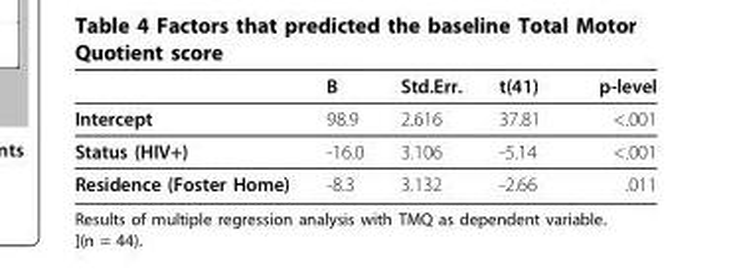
<table><thead><tr><td></td><td>B</td><td>Std.Err.</td><td>t(41)</td><td>p-level</td></tr></thead><tbody><tr><td>Intercept</td><td>98.9</td><td>2.616</td><td>37.81</td><td>&lt;.001</td></tr><tr><td>Status (HIV+)</td><td>-16.0</td><td>3.106</td><td>-5.14</td><td>&lt;.001</td></tr><tr><td>Residence (Foster Home)</td><td>-8.3</td><td>3.132</td><td>-2.66</td><td>.011</td></tr></tbody></table>